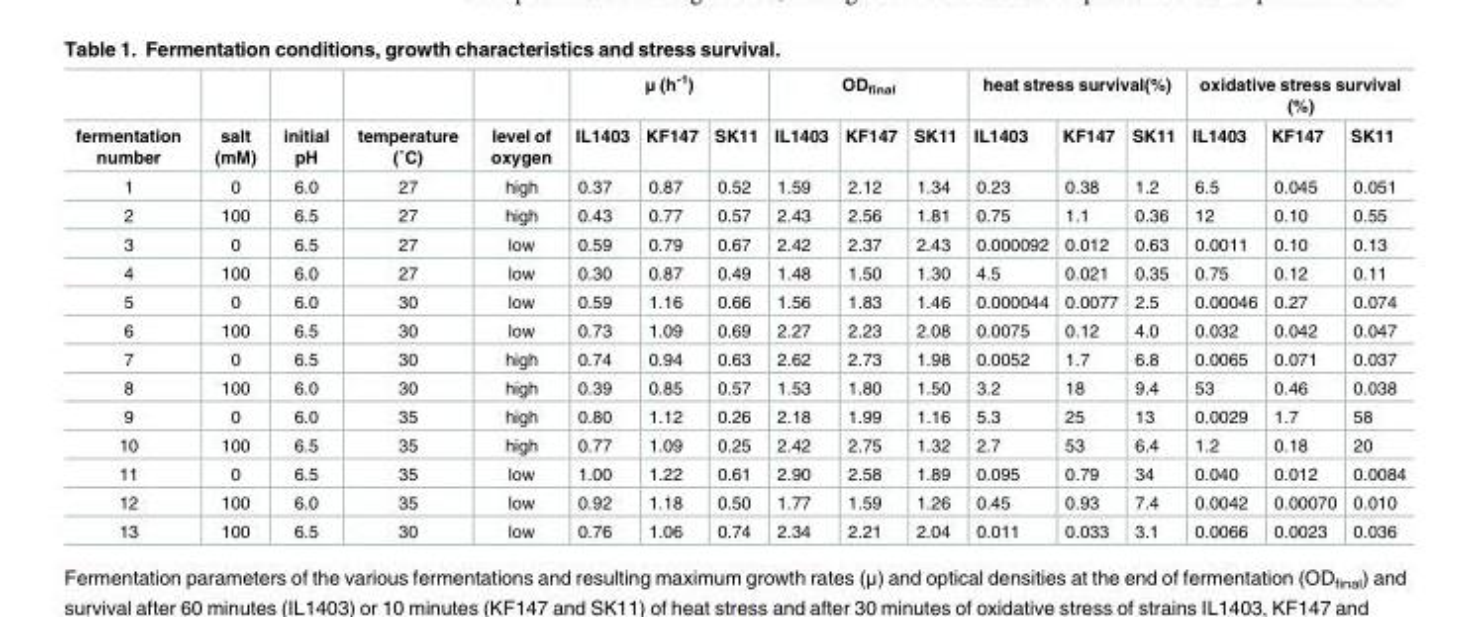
<table><thead><tr><td rowspan="2">fermentation number</td><td rowspan="2">salt (mM)</td><td rowspan="2">initial pH</td><td rowspan="2">temperature (˚C)</td><td rowspan="2">level of oxygen</td><td colspan="3">μ (h<sup>-1</sup>)</td><td colspan="3">OD<sub>final</sub></td><td colspan="3">heat stress survival(%)</td><td colspan="3">oxidative stress survival (%)</td></tr><tr><td>IL1403</td><td>KF147</td><td>SK11</td><td>IL1403</td><td>KF147</td><td>SK11</td><td>IL1403</td><td>KF147</td><td>SK11</td><td>IL1403</td><td>KF147</td><td>SK11</td></tr></thead><tbody><tr><td>1</td><td>0</td><td>6.0</td><td>27</td><td>high</td><td>0.37</td><td>0.87</td><td>0.52</td><td>1.59</td><td>2.12</td><td>1.34</td><td>0.23</td><td>0.38</td><td>1.2</td><td>6.5</td><td>0.045</td><td>0.051</td></tr><tr><td>2</td><td>100</td><td>6.5</td><td>27</td><td>high</td><td>0.43</td><td>0.77</td><td>0.57</td><td>2.43</td><td>2.56</td><td>1.81</td><td>0.75</td><td>1.1</td><td>0.36</td><td>12</td><td>0.10</td><td>0.55</td></tr><tr><td>3</td><td>0</td><td>6.5</td><td>27</td><td>low</td><td>0.59</td><td>0.79</td><td>0.67</td><td>2.42</td><td>2.37</td><td>2.43</td><td>0.000092</td><td>0.012</td><td>0.63</td><td>0.0011</td><td>0.10</td><td>0.13</td></tr><tr><td>4</td><td>100</td><td>6.0</td><td>27</td><td>low</td><td>0.30</td><td>0.87</td><td>0.49</td><td>1.48</td><td>1.50</td><td>1.30</td><td>4.5</td><td>0.021</td><td>0.35</td><td>0.75</td><td>0.12</td><td>0.11</td></tr><tr><td>5</td><td>0</td><td>6.0</td><td>30</td><td>low</td><td>0.59</td><td>1.16</td><td>0.66</td><td>1.56</td><td>1.83</td><td>1.46</td><td>0.000044</td><td>0.0077</td><td>2.5</td><td>0.00046</td><td>0.27</td><td>0.074</td></tr><tr><td>6</td><td>100</td><td>6.5</td><td>30</td><td>low</td><td>0.73</td><td>1.09</td><td>0.69</td><td>2.27</td><td>2.23</td><td>2.08</td><td>0.0075</td><td>0.12</td><td>4.0</td><td>0.032</td><td>0.042</td><td>0.047</td></tr><tr><td>7</td><td>0</td><td>6.5</td><td>30</td><td>high</td><td>0.74</td><td>0.94</td><td>0.63</td><td>2.62</td><td>2.73</td><td>1.98</td><td>0.0052</td><td>1.7</td><td>6.8</td><td>0.0065</td><td>0.071</td><td>0.037</td></tr><tr><td>8</td><td>100</td><td>6.0</td><td>30</td><td>high</td><td>0.39</td><td>0.85</td><td>0.57</td><td>1.53</td><td>1.80</td><td>1.50</td><td>3.2</td><td>18</td><td>9.4</td><td>53</td><td>0.46</td><td>0.038</td></tr><tr><td>9</td><td>0</td><td>6.0</td><td>35</td><td>high</td><td>0.80</td><td>1.12</td><td>0.26</td><td>2.18</td><td>1.99</td><td>1.16</td><td>5.3</td><td>25</td><td>13</td><td>0.0029</td><td>1.7</td><td>58</td></tr><tr><td>10</td><td>100</td><td>6.5</td><td>35</td><td>high</td><td>0.77</td><td>1.09</td><td>0.25</td><td>2.42</td><td>2.75</td><td>1.32</td><td>2.7</td><td>53</td><td>6.4</td><td>1.2</td><td>0.18</td><td>20</td></tr><tr><td>11</td><td>0</td><td>6.5</td><td>35</td><td>low</td><td>1.00</td><td>1.22</td><td>0.61</td><td>2.90</td><td>2.58</td><td>1.89</td><td>0.095</td><td>0.79</td><td>34</td><td>0.040</td><td>0.012</td><td>0.0084</td></tr><tr><td>12</td><td>100</td><td>6.0</td><td>35</td><td>low</td><td>0.92</td><td>1.18</td><td>0.50</td><td>1.77</td><td>1.59</td><td>1.26</td><td>0.45</td><td>0.93</td><td>7.4</td><td>0.0042</td><td>0.00070</td><td>0.010</td></tr><tr><td>13</td><td>100</td><td>6.5</td><td>30</td><td>low</td><td>0.76</td><td>1.06</td><td>0.74</td><td>2.34</td><td>2.21</td><td>2.04</td><td>0.011</td><td>0.033</td><td>3.1</td><td>0.0066</td><td>0.0023</td><td>0.036</td></tr></tbody></table>